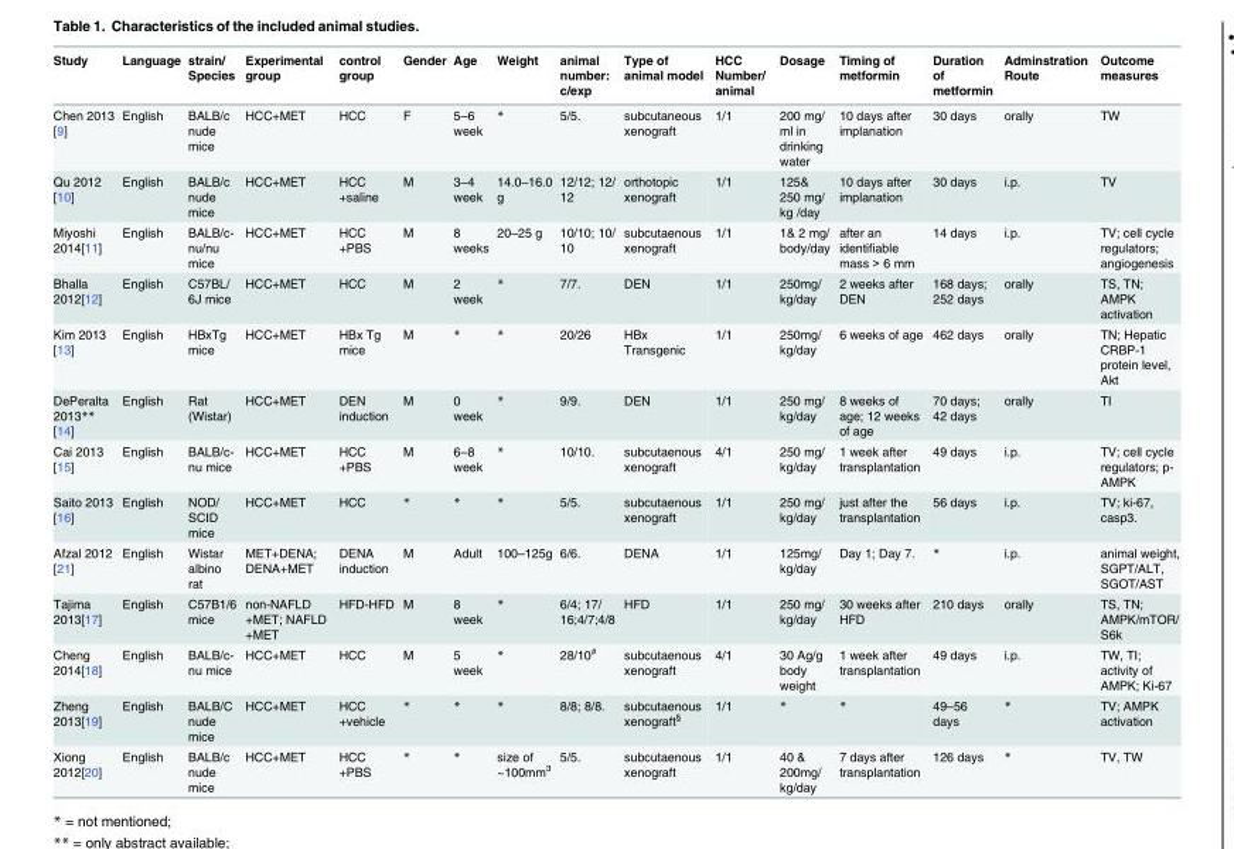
<table><thead><tr><td>Study</td><td>Language</td><td>strain/ Species</td><td>Experimental group</td><td>control group</td><td>Gender</td><td>Age</td><td>Weight</td><td>animal number: c/exp</td><td>Type of animal model</td><td>HCC Number/ animal</td><td>Dosage</td><td>Timing of metformin</td><td>Duration of metformin</td><td>Adminstration Route</td><td>Outcome measures</td></tr></thead><tbody><tr><td>Chen 2013 [9]</td><td>English</td><td>BALB/c nude mice</td><td>HCC+MET</td><td>HCC</td><td>F</td><td>5–6 week</td><td>*</td><td>5/5.</td><td>subcutaneous xenograft</td><td>1/1</td><td>200 mg/ ml in drinking water</td><td>10 days after implanation</td><td>30 days</td><td>orally</td><td>TW</td></tr><tr><td>Qu 2012 [10]</td><td>English</td><td>BALB/c nude mice</td><td>HCC+MET</td><td>HCC +saline</td><td>M</td><td>3–4 week</td><td>14.0–16.0 g</td><td>12/12; 12/ 12</td><td>orthotopic xenograft</td><td>1/1</td><td>125&amp; 250 mg/ kg /day</td><td>10 days after implanation</td><td>30 days</td><td>i.p.</td><td>TV</td></tr><tr><td>Miyoshi 2014[11]</td><td>English</td><td>BALB/c- nu/nu mice</td><td>HCC+MET</td><td>HCC +PBS</td><td>M</td><td>8 weeks</td><td>20–25 g</td><td>10/10; 10/ 10</td><td>subcutaenous xenograft</td><td>1/1</td><td>1&amp; 2 mg/ body/day</td><td>after an identifiable mass &gt; 6 mm</td><td>14 days</td><td>i.p.</td><td>TV; cell cycle regulators; angiogenesis</td></tr><tr><td>Bhalla 2012[12]</td><td>English</td><td>C57BL/ 6J mice</td><td>HCC+MET</td><td>HCC</td><td>M</td><td>2 week</td><td>*</td><td>7/7.</td><td>DEN</td><td>1/1</td><td>250mg/ kg/day</td><td>2 weeks after DEN</td><td>168 days; 252 days</td><td>orally</td><td>TS, TN; AMPK activation</td></tr><tr><td>Kim 2013 [13]</td><td>English</td><td>HBxTg mice</td><td>HCC+MET</td><td>HBx Tg mice</td><td>M</td><td>*</td><td>*</td><td>20/26</td><td>HBx Transgenic</td><td>1/1</td><td>250mg/ kg/day</td><td>6 weeks of age</td><td>462 days</td><td>orally</td><td>TN; Hepatic CRBP-1 protein level, Akt</td></tr><tr><td>DePeralta 2013** [14]</td><td>English</td><td>Rat (Wistar)</td><td>HCC+MET</td><td>DEN induction</td><td>M</td><td>0 week</td><td>*</td><td>9/9.</td><td>DEN</td><td>1/1</td><td>250 mg/ kg/day</td><td>8 weeks of age; 12 weeks of age</td><td>70 days; 42 days</td><td>orally</td><td>TI</td></tr><tr><td>Cai 2013 [15]</td><td>English</td><td>BALB/c- nu mice</td><td>HCC+MET</td><td>HCC +PBS</td><td>M</td><td>6–8 week</td><td>*</td><td>10/10.</td><td>subcutaenous xenograft</td><td>4/1</td><td>250 mg/ kg/day</td><td>1 week after transplantation</td><td>49 days</td><td>i.p.</td><td>TV; cell cycle regulators; p- AMPK</td></tr><tr><td>Saito 2013 [16]</td><td>English</td><td>NOD/ SCID mice</td><td>HCC+MET</td><td>HCC</td><td>*</td><td>*</td><td>*</td><td>5/5.</td><td>subcutaenous xenograft</td><td>1/1</td><td>250 mg/ kg/day</td><td>just after the transplantation</td><td>56 days</td><td>i.p.</td><td>TV; ki-67, casp3.</td></tr><tr><td>Afzal 2012 [21]</td><td>English</td><td>Wistar albino rat</td><td>MET+DENA; DENA+MET</td><td>DENA induction</td><td>M</td><td>Adult</td><td>100–125g</td><td>6/6.</td><td>DENA</td><td>1/1</td><td>125mg/ kg/day</td><td>Day 1; Day 7.</td><td>*</td><td>i.p.</td><td>animal weight, SGPT/ALT, SGOT/AST</td></tr><tr><td>Tajima 2013[17]</td><td>English</td><td>C57B1/6 mice</td><td>non-NAFLD +MET; NAFLD +MET</td><td>HFD-HFD</td><td>M</td><td>8 week</td><td>*</td><td>6/4; 17/ 16;4/7;4/8</td><td>HFD</td><td>1/1</td><td>250 mg/ kg/day</td><td>30 weeks after HFD</td><td>210 days</td><td>orally</td><td>TS, TN; AMPK/mTOR/ S6k</td></tr><tr><td>Cheng 2014[18]</td><td>English</td><td>BALB/c- nu mice</td><td>HCC+MET</td><td>HCC</td><td>M</td><td>5 week</td><td>*</td><td>28/10<sup>#</sup></td><td>subcutaenous xenograft</td><td>4/1</td><td>30 Ag/g body weight</td><td>1 week after transplantation</td><td>49 days</td><td>i.p.</td><td>TW, TI; activity of AMPK; Ki-67</td></tr><tr><td>Zheng 2013[19]</td><td>English</td><td>BALB/C nude mice</td><td>HCC+MET</td><td>HCC +vehicle</td><td>*</td><td>*</td><td>*</td><td>8/8; 8/8.</td><td>subcutaenous xenograft<sup>§</sup></td><td>1/1</td><td>*</td><td>*</td><td>49–56 days</td><td>*</td><td>TV; AMPK activation</td></tr><tr><td>Xiong 2012[20]</td><td>English</td><td>BALB/c nude mice</td><td>HCC+MET</td><td>HCC +PBS</td><td>*</td><td>*</td><td>size of ~100mm<sup>3</sup></td><td>5/5.</td><td>subcutaenous xenograft</td><td>1/1</td><td>40 &amp; 200mg/ kg/day</td><td>7 days after transplantation</td><td>126 days</td><td>*</td><td>TV, TW</td></tr></tbody></table>